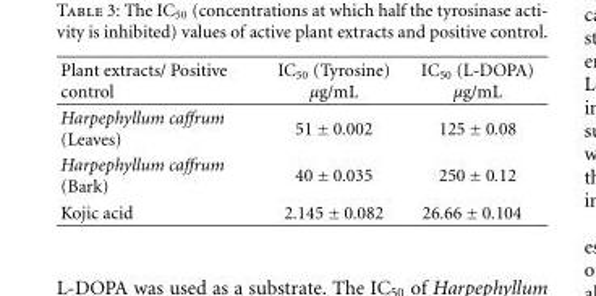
<table><thead><tr><td>Plant extracts/ Positive control</td><td>IC<sub>50</sub> (Tyrosine) µg/mL</td><td>IC<sub>50</sub> (L-DOPA) µg/mL</td></tr></thead><tbody><tr><td>Harpephyllum caffrum (Leaves)</td><td>51 ± 0.002</td><td>125 ± 0.08</td></tr><tr><td>Harpephyllum caffrum (Bark)</td><td>40 ± 0.035</td><td>250 ± 0.12</td></tr><tr><td>Kojic acid</td><td>2.145 ± 0.082</td><td>26.66 ± 0.104</td></tr></tbody></table>